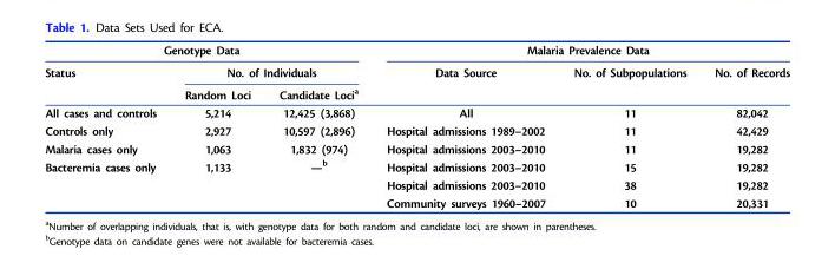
<table><thead><tr><td colspan="3">Genotype Data</td><td colspan="3">Malaria Prevalence Data</td></tr><tr><td rowspan="2">Status</td><td colspan="2">No. of Individuals</td><td rowspan="2">Data Source</td><td rowspan="2">No. of Subpopulations</td><td rowspan="2">No. of Records</td></tr><tr><td>Random Loci</td><td>Candidate Loci<sup>a</sup></td></tr></thead><tbody><tr><td>All cases and controls</td><td>5,214</td><td>12,425 (3,868)</td><td>All</td><td>11</td><td>82,042</td></tr><tr><td>Controls only</td><td>2,927</td><td>10,597 (2,896)</td><td>Hospital admissions 1989–2002</td><td>11</td><td>42,429</td></tr><tr><td>Malaria cases only</td><td>1,063</td><td>1,832 (974)</td><td>Hospital admissions 2003–2010</td><td>11</td><td>19,282</td></tr><tr><td rowspan="3">Bacteremia cases only</td><td>1,133</td><td>—<sup>b</sup></td><td>Hospital admissions 2003–2010</td><td>15</td><td>19,282</td></tr><tr><td></td><td></td><td>Hospital admissions 2003–2010</td><td>38</td><td>19,282</td></tr><tr><td></td><td></td><td>Community surveys 1960–2007</td><td>10</td><td>20,331</td></tr></tbody></table>